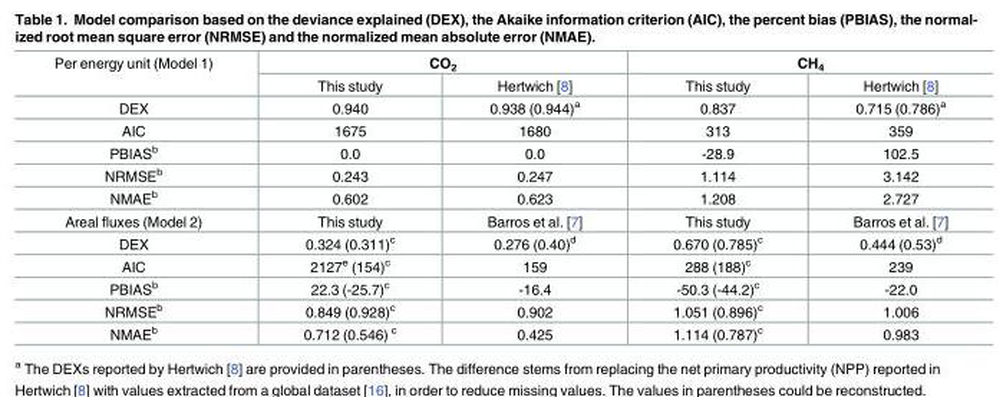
<table><tbody><tr><td rowspan="2">Per energy unit (Model 1)</td><td colspan="2">CO<sub>2</sub></td><td colspan="2">CH<sub>4</sub></td></tr><tr><td>This study</td><td>Hertwich [8]</td><td>This study</td><td>Hertwich [8]</td></tr><tr><td>DEX</td><td>0.940</td><td>0.938 (0.944)<sup>a</sup></td><td>0.837</td><td>0.715 (0.786)<sup>a</sup></td></tr><tr><td>AIC</td><td>1675</td><td>1680</td><td>313</td><td>359</td></tr><tr><td>PBIAS<sup>b</sup></td><td>0.0</td><td>0.0</td><td>-28.9</td><td>102.5</td></tr><tr><td>NRMSE<sup>b</sup></td><td>0.243</td><td>0.247</td><td>1.114</td><td>3.142</td></tr><tr><td>NMAE<sup>b</sup></td><td>0.602</td><td>0.623</td><td>1.208</td><td>2.727</td></tr><tr><td>Areal fluxes (Model 2)</td><td>This study</td><td>Barros et al. [7]</td><td>This study</td><td>Barros et al. [7]</td></tr><tr><td>DEX</td><td>0.324 (0.311)<sup>c</sup></td><td>0.276 (0.40)<sup>d</sup></td><td>0.670 (0.785)<sup>c</sup></td><td>0.444 (0.53)<sup>d</sup></td></tr><tr><td>AIC</td><td>2127<sup>e</sup> (154)<sup>c</sup></td><td>159</td><td>288 (188)<sup>c</sup></td><td>239</td></tr><tr><td>PBIAS<sup>b</sup></td><td>22.3 (-25.7)<sup>c</sup></td><td>-16.4</td><td>-50.3 (-44.2)<sup>c</sup></td><td>-22.0</td></tr><tr><td>NRMSE<sup>b</sup></td><td>0.849 (0.928)<sup>c</sup></td><td>0.902</td><td>1.051 (0.896)<sup>c</sup></td><td>1.006</td></tr><tr><td>NMAE<sup>b</sup></td><td>0.712 (0.546) <sup>c</sup></td><td>0.425</td><td>1.114 (0.787)<sup>c</sup></td><td>0.983</td></tr></tbody></table>